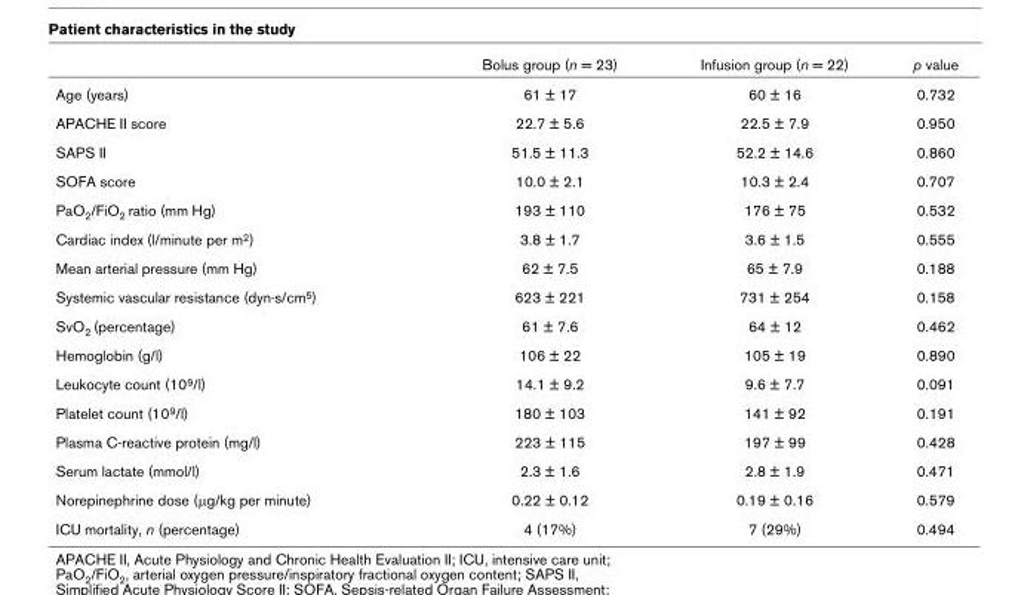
<table><thead><tr><td></td><td>Bolus group (n = 23)</td><td>Infusion group (n = 22)</td><td>p value</td></tr></thead><tbody><tr><td>Age (years)</td><td>61 ± 17</td><td>60 ± 16</td><td>0.732</td></tr><tr><td>APACHE II score</td><td>22.7 ± 5.6</td><td>22.5 ± 7.9</td><td>0.950</td></tr><tr><td>SAPS II</td><td>51.5 ± 11.3</td><td>52.2 ± 14.6</td><td>0.860</td></tr><tr><td>SOFA score</td><td>10.0 ± 2.1</td><td>10.3 ± 2.4</td><td>0.707</td></tr><tr><td>PaO<sub>2</sub>/FiO<sub>2</sub> ratio (mm Hg)</td><td>193 ± 110</td><td>176 ± 75</td><td>0.532</td></tr><tr><td>Cardiac index (l/minute per m<sup>2</sup>)</td><td>3.8 ± 1.7</td><td>3.6 ± 1.5</td><td>0.555</td></tr><tr><td>Mean arterial pressure (mm Hg)</td><td>62 ± 7.5</td><td>65 ± 7.9</td><td>0.188</td></tr><tr><td>Systemic vascular resistance (dyn·s/cm<sup>5</sup>)</td><td>623 ± 221</td><td>731 ± 254</td><td>0.158</td></tr><tr><td>SvO<sub>2</sub> (percentage)</td><td>61 ± 7.6</td><td>64 ± 12</td><td>0.462</td></tr><tr><td>Hemoglobin (g/l)</td><td>106 ± 22</td><td>105 ± 19</td><td>0.890</td></tr><tr><td>Leukocyte count (10<sup>9</sup>/l)</td><td>14.1 ± 9.2</td><td>9.6 ± 7.7</td><td>0.091</td></tr><tr><td>Platelet count (10<sup>9</sup>/l)</td><td>180 ± 103</td><td>141 ± 92</td><td>0.191</td></tr><tr><td>Plasma C-reactive protein (mg/l)</td><td>223 ± 115</td><td>197 ± 99</td><td>0.428</td></tr><tr><td>Serum lactate (mmol/l)</td><td>2.3 ± 1.6</td><td>2.8 ± 1.9</td><td>0.471</td></tr><tr><td>Norepinephrine dose (μg/kg per minute)</td><td>0.22 ± 0.12</td><td>0.19 ± 0.16</td><td>0.579</td></tr><tr><td>ICU mortality, n (percentage)</td><td>4 (17%)</td><td>7 (29%)</td><td>0.494</td></tr></tbody></table>